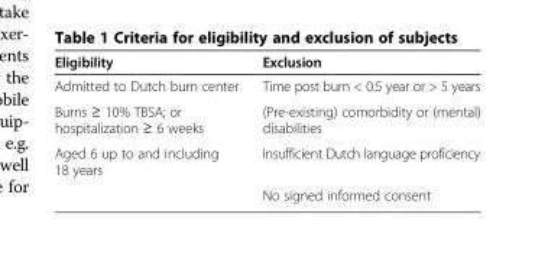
<table><thead><tr><td>Eligibility</td><td>Exclusion</td></tr></thead><tbody><tr><td>Admitted to Dutch burn center</td><td>Time post burn &lt; 0.5 year or &gt; 5 years</td></tr><tr><td>Burns ≥ 10% TBSA; or hospitalization ≥ 6 weeks</td><td>(Pre-existing) comorbidity or (mental) disabilities</td></tr><tr><td rowspan="2">Aged 6 up to and including 18 years</td><td>Insufficient Dutch language proficiency</td></tr><tr><td>No signed informed consent</td></tr></tbody></table>